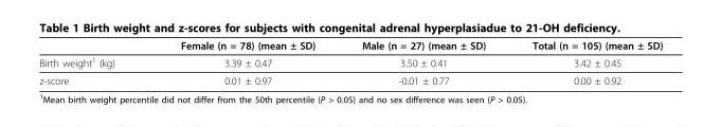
<table><thead><tr><td></td><td>Female (n = 78) (mean ± SD)</td><td>Male (n = 27) (mean ± SD)</td><td>Total (n = 105) (mean ± SD)</td></tr></thead><tbody><tr><td>Birth weight<sup>1</sup> (kg)</td><td>3.39 ± 0.47</td><td>3.50 ± 0.41</td><td>3.42 ± 0.45</td></tr><tr><td>z-score</td><td>0.01 ± 0.97</td><td>-0.01 ± 0.77</td><td>0.00 ± 0.92</td></tr></tbody></table>